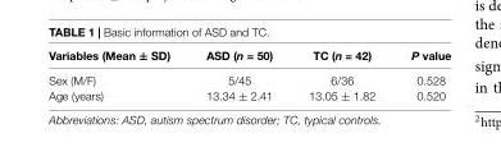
<table><thead><tr><td>Variables (Mean ± SD)</td><td>ASD (n = 50)</td><td>TC (n = 42)</td><td>P value</td></tr></thead><tbody><tr><td>Sex (M/F)</td><td>5/45</td><td>6/36</td><td>0.528</td></tr><tr><td>Age (years)</td><td>13.34 ± 2.41</td><td>13.05 ± 1.82</td><td>0.520</td></tr></tbody></table>